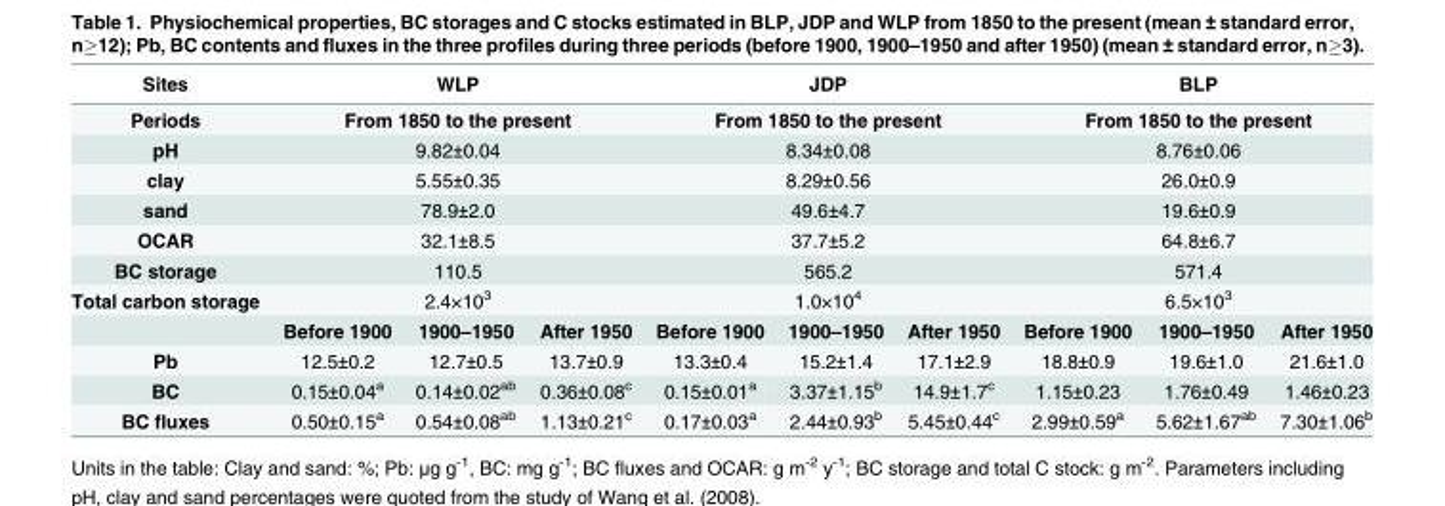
<table><thead><tr><td>Sites</td><td colspan="3">WLP</td><td colspan="3">JDP</td><td colspan="3">BLP</td></tr></thead><tbody><tr><td>Periods</td><td colspan="3">From 1850 to the present</td><td colspan="3">From 1850 to the present</td><td colspan="3">From 1850 to the present</td></tr><tr><td>pH</td><td colspan="3">9.82±0.04</td><td colspan="3">8.34±0.08</td><td colspan="3">8.76±0.06</td></tr><tr><td>clay</td><td colspan="3">5.55±0.35</td><td colspan="3">8.29±0.56</td><td colspan="3">26.0±0.9</td></tr><tr><td>sand</td><td colspan="3">78.9±2.0</td><td colspan="3">49.6±4.7</td><td colspan="3">19.6±0.9</td></tr><tr><td>OCAR</td><td colspan="3">32.1±8.5</td><td colspan="3">37.7±5.2</td><td colspan="3">64.8±6.7</td></tr><tr><td>BC storage</td><td colspan="3">110.5</td><td colspan="3">565.2</td><td colspan="3">571.4</td></tr><tr><td rowspan="2">Total carbon storage</td><td colspan="3">2.4×10<sup>3</sup></td><td colspan="3">1.0×10<sup>4</sup></td><td colspan="3">6.5×10<sup>3</sup></td></tr><tr><td>Before 1900</td><td>1900–1950</td><td>After 1950</td><td>Before 1900</td><td>1900–1950</td><td>After 1950</td><td>Before 1900</td><td>1900–1950</td><td>After 1950</td></tr><tr><td>Pb</td><td>12.5±0.2</td><td>12.7±0.5</td><td>13.7±0.9</td><td>13.3±0.4</td><td>15.2±1.4</td><td>17.1±2.9</td><td>18.8±0.9</td><td>19.6±1.0</td><td>21.6±1.0</td></tr><tr><td>BC</td><td>0.15±0.04<sup>a</sup></td><td>0.14±0.02<sup>ab</sup></td><td>0.36±0.08<sup>c</sup></td><td>0.15±0.01<sup>a</sup></td><td>3.37±1.15<sup>b</sup></td><td>14.9±1.7<sup>c</sup></td><td>1.15±0.23</td><td>1.76±0.49</td><td>1.46±0.23</td></tr><tr><td>BC fluxes</td><td>0.50±0.15<sup>a</sup></td><td>0.54±0.08<sup>ab</sup></td><td>1.13±0.21<sup>c</sup></td><td>0.17±0.03<sup>a</sup></td><td>2.44±0.93<sup>b</sup></td><td>5.45±0.44<sup>c</sup></td><td>2.99±0.59<sup>a</sup></td><td>5.62±1.67<sup>ab</sup></td><td>7.30±1.06<sup>b</sup></td></tr></tbody></table>